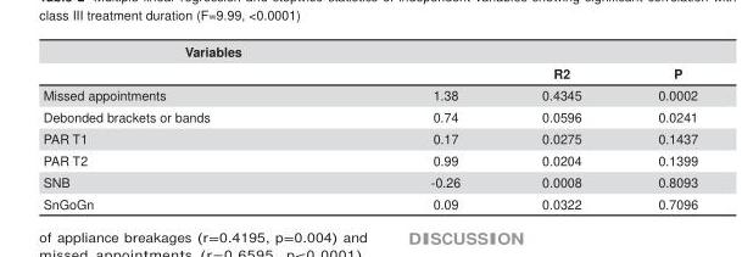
<table><thead><tr><td rowspan="2">Variables</td><td rowspan="2"></td><td rowspan="2">R2</td><td rowspan="2">P</td></tr><tr></tr></thead><tbody><tr><td>Missed appointments</td><td>1.38</td><td>0.4345</td><td>0.0002</td></tr><tr><td>Debonded brackets or bands</td><td>0.74</td><td>0.0596</td><td>0.0241</td></tr><tr><td>PAR T1</td><td>0.17</td><td>0.0275</td><td>0.1437</td></tr><tr><td>PAR T2</td><td>0.99</td><td>0.0204</td><td>0.1399</td></tr><tr><td>SNB</td><td>-0.26</td><td>0.0008</td><td>0.8093</td></tr><tr><td>SnGoGn</td><td>0.09</td><td>0.0322</td><td>0.7096</td></tr></tbody></table>